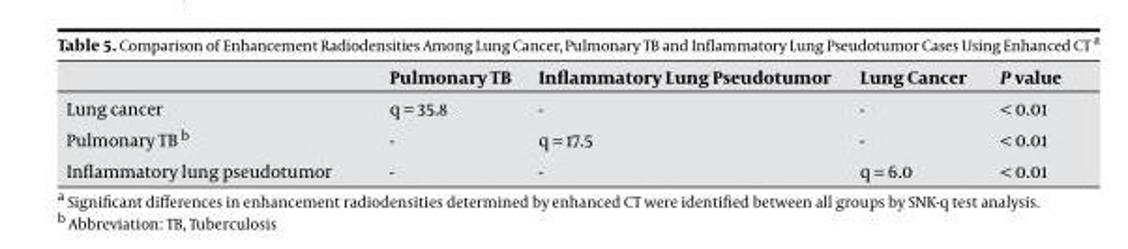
<table><thead><tr><td></td><td>Pulmonary TB</td><td>Inflammatory Lung Pseudotumor</td><td>Lung Cancer</td><td>P value</td></tr></thead><tbody><tr><td>Lung cancer</td><td>q = 35.8</td><td>-</td><td>-</td><td>&lt; 0.01</td></tr><tr><td>Pulmonary TB b</td><td>-</td><td>q = 17.5</td><td>-</td><td>&lt; 0.01</td></tr><tr><td>Inflammatory lung pseudotumor</td><td>-</td><td>-</td><td>q = 6.0</td><td>&lt; 0.01</td></tr></tbody></table>